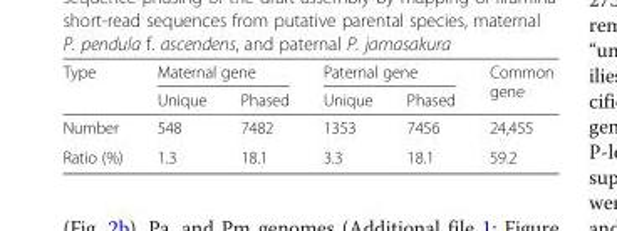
<table><thead><tr><td rowspan="2">Type</td><td colspan="2">Maternal gene</td><td colspan="2">Paternal gene</td><td rowspan="2">Common gene</td></tr><tr><td>Unique</td><td>Phased</td><td>Unique</td><td>Phased</td></tr></thead><tbody><tr><td>Number</td><td>548</td><td>7482</td><td>1353</td><td>7456</td><td>24,455</td></tr><tr><td>Ratio (%)</td><td>1.3</td><td>18.1</td><td>3.3</td><td>18.1</td><td>59.2</td></tr></tbody></table>